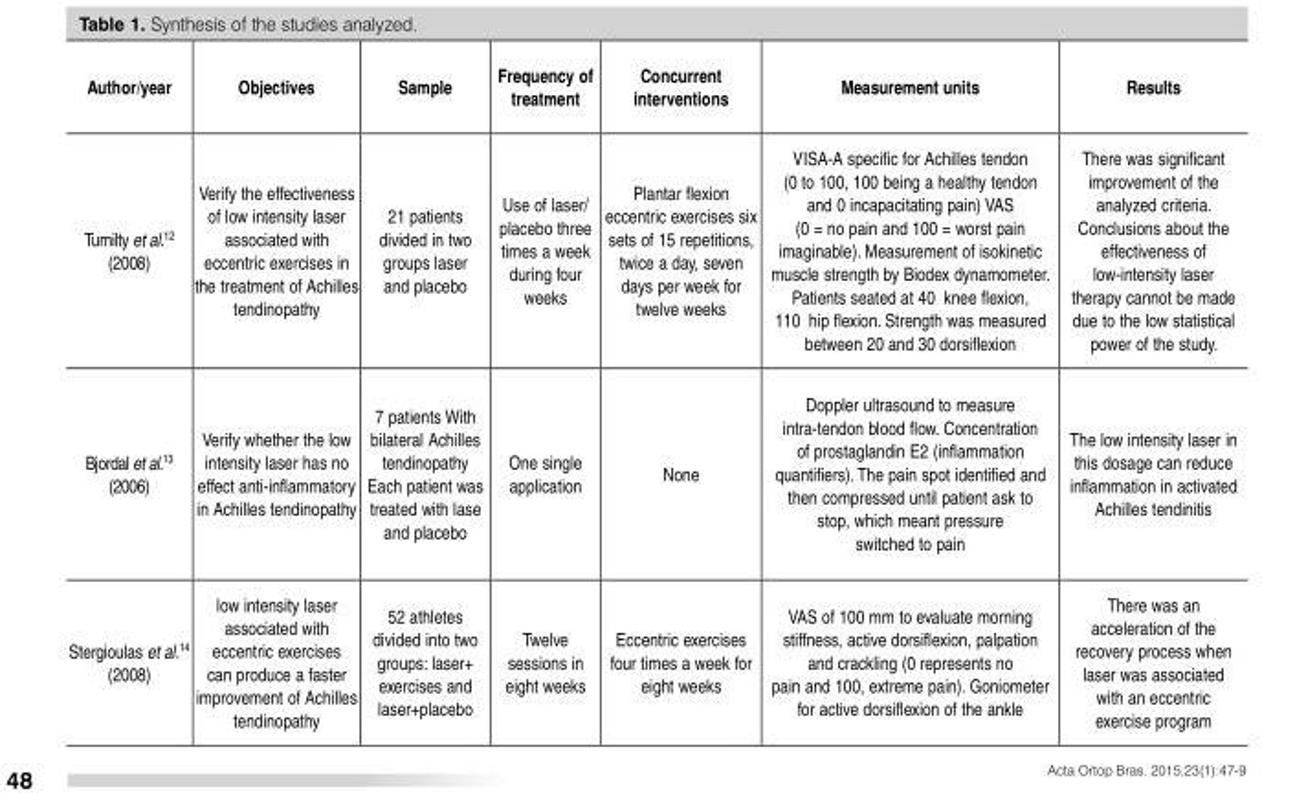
<table><thead><tr><td>Author/year</td><td>Objectives</td><td>Sample</td><td>Frequency of treatment</td><td>Concurrent interventions</td><td>Measurement units</td><td>Results</td></tr></thead><tbody><tr><td>Tumilty et al.12 (2008)</td><td>Verify the effectiveness of low intensity laser associated with eccentric exercises in the treatment of Achilles tendinopathy</td><td>21 patients divided in two groups laser and placebo</td><td>Use of laser/ placebo three times a week during four weeks</td><td>Plantar flexion eccentric exercises six sets of 15 repetitions, twice a day, seven days per week for twelve weeks</td><td>VISA-A specific for Achilles tendon (0 to 100, 100 being a healthy tendon and 0 incapacitating pain) VAS (0 = no pain and 100 = worst pain imaginable). Measurement of isokinetic muscle strength by Biodex dynamometer. Patients seated at 40° knee flexion, 110° hip flexion. Strength was measured between 20 and 30 dorsiflexion</td><td>There was significant improvement of the analyzed criteria. Conclusions about the effectiveness of low-intensity laser therapy cannot be made due to the low statistical power of the study.</td></tr><tr><td>Bjordal et al.13 (2006)</td><td>Verify whether the low intensity laser has no effect anti-inflammatory in Achilles tendinopathy</td><td>7 patients With bilateral Achilles tendinopathy Each patient was treated with lase and placebo</td><td>One single application</td><td>None</td><td>Doppler ultrasound to measure intra-tendon blood flow. Concentration of prostaglandin E2 (inflammation quantifiers). The pain spot identified and then compressed until patient ask to stop, which meant pressure switched to pain</td><td>The low intensity laser in this dosage can reduce inflammation in activated Achilles tendinitis</td></tr><tr><td>Stergioulas et al.14 (2008)</td><td>low intensity laser associated with eccentric exercises can produce a faster improvement of Achilles tendinopathy</td><td>52 athletes divided into two groups: laser+ exercises and laser+placebo</td><td>Twelve sessions in eight weeks</td><td>Eccentric exercises four times a week for eight weeks</td><td>VAS of 100 mm to evaluate morning stiffness, active dorsiflexion, palpation and crackling (0 represents no pain and 100, extreme pain). Goniometer for active dorsiflexion of the ankle</td><td>There was an acceleration of the recovery process when laser was associated with an eccentric exercise program</td></tr></tbody></table>